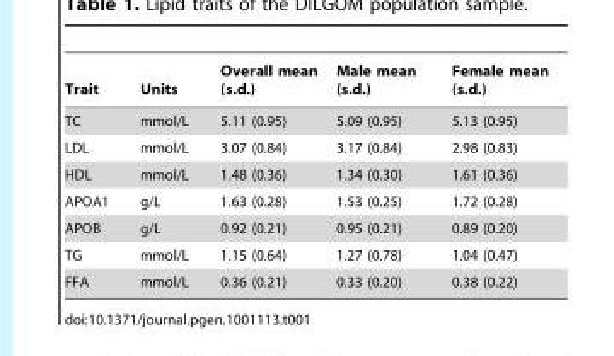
<table><thead><tr><td>Trait</td><td>Units</td><td>Overall mean (s.d.)</td><td>Male mean (s.d.)</td><td>Female mean (s.d.)</td></tr></thead><tbody><tr><td>TC</td><td>mmol/L</td><td>5.11 (0.95)</td><td>5.09 (0.95)</td><td>5.13 (0.95)</td></tr><tr><td>LDL</td><td>mmol/L</td><td>3.07 (0.84)</td><td>3.17 (0.84)</td><td>2.98 (0.83)</td></tr><tr><td>HDL</td><td>mmol/L</td><td>1.48 (0.36)</td><td>1.34 (0.30)</td><td>1.61 (0.36)</td></tr><tr><td>APOA1</td><td>g/L</td><td>1.63 (0.28)</td><td>1.53 (0.25)</td><td>1.72 (0.28)</td></tr><tr><td>APOB</td><td>g/L</td><td>0.92 (0.21)</td><td>0.95 (0.21)</td><td>0.89 (0.20)</td></tr><tr><td>TG</td><td>mmol/L</td><td>1.15 (0.64)</td><td>1.27 (0.78)</td><td>1.04 (0.47)</td></tr><tr><td>FFA</td><td>mmol/L</td><td>0.36 (0.21)</td><td>0.33 (0.20)</td><td>0.38 (0.22)</td></tr></tbody></table>